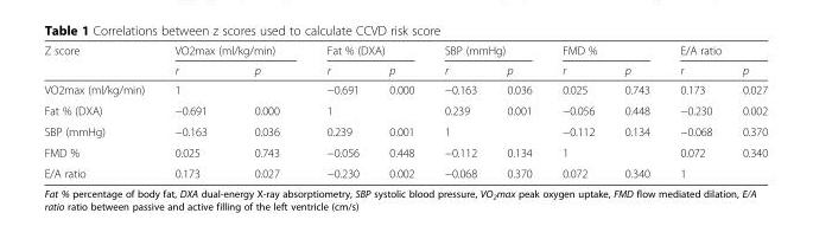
<table><thead><tr><td rowspan="2">Z score</td><td colspan="2">VO2max (ml/kg/min)</td><td colspan="2">Fat % (DXA)</td><td colspan="2">SBP (mmHg)</td><td colspan="2">FMD %</td><td colspan="2">E/A ratio</td></tr><tr><td>r</td><td>p</td><td>r</td><td>p</td><td>r</td><td>p</td><td>r</td><td>p</td><td>r</td><td>p</td></tr></thead><tbody><tr><td>VO2max (ml/kg/min)</td><td>1</td><td></td><td>−0.691</td><td>0.000</td><td>−0.163</td><td>0.036</td><td>0.025</td><td>0.743</td><td>0.173</td><td>0.027</td></tr><tr><td>Fat % (DXA)</td><td>−0.691</td><td>0.000</td><td>1</td><td></td><td>0.239</td><td>0.001</td><td>−0.056</td><td>0.448</td><td>−0.230</td><td>0.002</td></tr><tr><td>SBP (mmHg)</td><td>−0.163</td><td>0.036</td><td>0.239</td><td>0.001</td><td>1</td><td></td><td>−0.112</td><td>0.134</td><td>−0.068</td><td>0.370</td></tr><tr><td>FMD %</td><td>0.025</td><td>0.743</td><td>−0.056</td><td>0.448</td><td>−0.112</td><td>0.134</td><td>1</td><td></td><td>0.072</td><td>0.340</td></tr><tr><td>E/A ratio</td><td>0.173</td><td>0.027</td><td>−0.230</td><td>0.002</td><td>−0.068</td><td>0.370</td><td>0.072</td><td>0.340</td><td>1</td><td></td></tr></tbody></table>